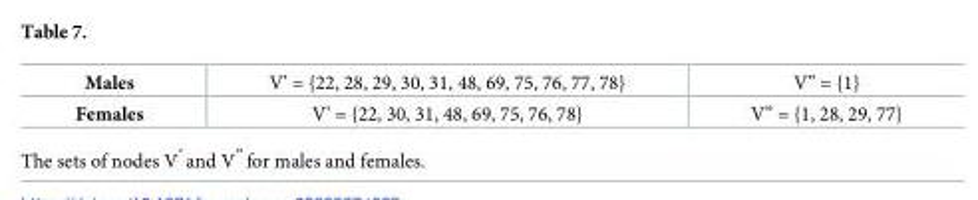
<table><tbody><tr><td>Males</td><td>V’ = {22, 28, 29, 30, 31, 48, 69, 75, 76, 77, 78}</td><td>V” = {1}</td></tr><tr><td>Females</td><td>V’ = {22, 30, 31, 48, 69, 75, 76, 78}</td><td>V” = {1, 28, 29, 77}</td></tr></tbody></table>